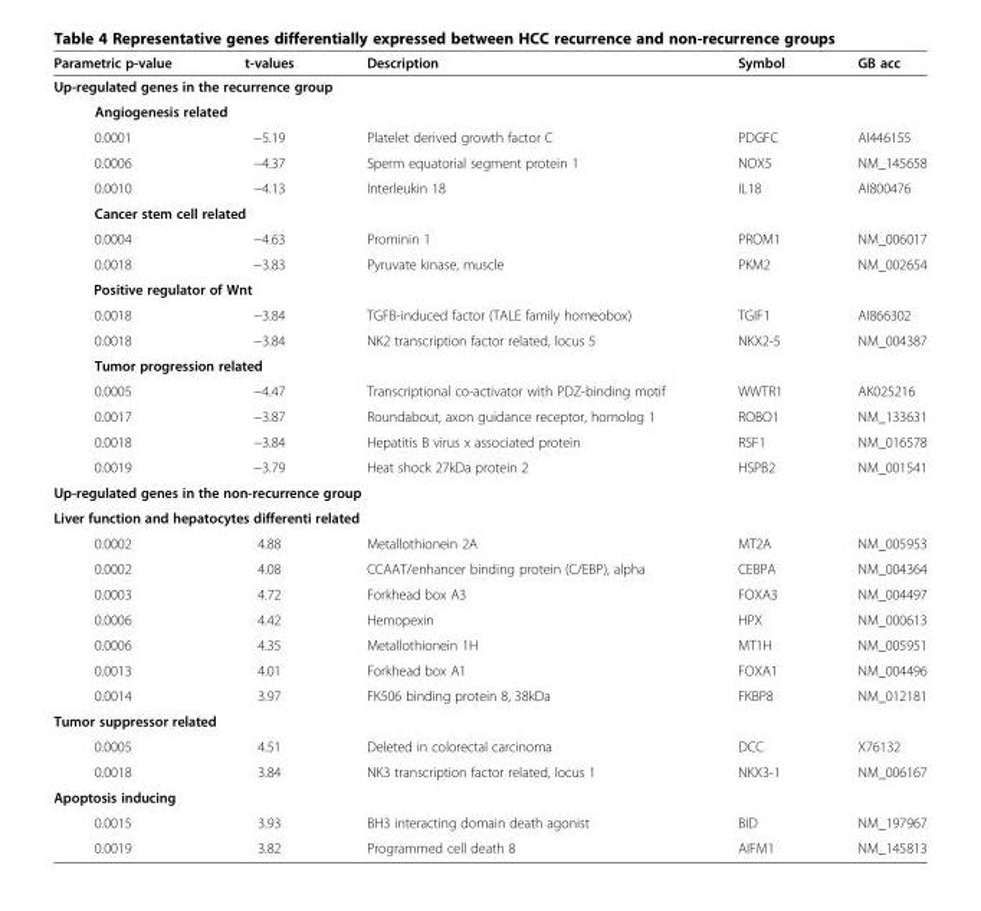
<table><thead><tr><td>Parametric p-value</td><td>t-values</td><td>Description</td><td>Symbol</td><td>GB acc</td></tr></thead><tbody><tr><td colspan="5">Up-regulated genes in the recurrence group</td></tr><tr><td colspan="5">Angiogenesis related</td></tr><tr><td>0.0001</td><td>−5.19</td><td>Platelet derived growth factor C</td><td>PDGFC</td><td>AI446155</td></tr><tr><td>0.0006</td><td>−4.37</td><td>Sperm equatorial segment protein 1</td><td>NOX5</td><td>NM_145658</td></tr><tr><td>0.0010</td><td>−4.13</td><td>Interleukin 18</td><td>IL18</td><td>AI800476</td></tr><tr><td colspan="5">Cancer stem cell related</td></tr><tr><td>0.0004</td><td>−4.63</td><td>Prominin 1</td><td>PROM1</td><td>NM_006017</td></tr><tr><td>0.0018</td><td>−3.83</td><td>Pyruvate kinase, muscle</td><td>PKM2</td><td>NM_002654</td></tr><tr><td colspan="5">Positive regulator of Wnt</td></tr><tr><td>0.0018</td><td>−3.84</td><td>TGFB-induced factor (TALE family homeobox)</td><td>TGIF1</td><td>AI866302</td></tr><tr><td>0.0018</td><td>−3.84</td><td>NK2 transcription factor related, locus 5</td><td>NKX2-5</td><td>NM_004387</td></tr><tr><td colspan="5">Tumor progression related</td></tr><tr><td>0.0005</td><td>−4.47</td><td>Transcriptional co-activator with PDZ-binding motif</td><td>WWTR1</td><td>AK025216</td></tr><tr><td>0.0017</td><td>−3.87</td><td>Roundabout, axon guidance receptor, homolog 1</td><td>ROBO1</td><td>NM_133631</td></tr><tr><td>0.0018</td><td>−3.84</td><td>Hepatitis B virus x associated protein</td><td>RSF1</td><td>NM_016578</td></tr><tr><td>0.0019</td><td>−3.79</td><td>Heat shock 27kDa protein 2</td><td>HSPB2</td><td>NM_001541</td></tr><tr><td colspan="5">Up-regulated genes in the non-recurrence group</td></tr><tr><td colspan="5">Liver function and hepatocytes differenti related</td></tr><tr><td>0.0002</td><td>4.88</td><td>Metallothionein 2A</td><td>MT2A</td><td>NM_005953</td></tr><tr><td>0.0002</td><td>4.08</td><td>CCAAT/enhancer binding protein (C/EBP), alpha</td><td>CEBPA</td><td>NM_004364</td></tr><tr><td>0.0003</td><td>4.72</td><td>Forkhead box A3</td><td>FOXA3</td><td>NM_004497</td></tr><tr><td>0.0006</td><td>4.42</td><td>Hemopexin</td><td>HPX</td><td>NM_000613</td></tr><tr><td>0.0006</td><td>4.35</td><td>Metallothionein 1H</td><td>MT1H</td><td>NM_005951</td></tr><tr><td>0.0013</td><td>4.01</td><td>Forkhead box A1</td><td>FOXA1</td><td>NM_004496</td></tr><tr><td>0.0014</td><td>3.97</td><td>FK506 binding protein 8, 38kDa</td><td>FKBP8</td><td>NM_012181</td></tr><tr><td colspan="5">Tumor suppressor related</td></tr><tr><td>0.0005</td><td>4.51</td><td>Deleted in colorectal carcinoma</td><td>DCC</td><td>X76132</td></tr><tr><td>0.0018</td><td>3.84</td><td>NK3 transcription factor related, locus 1</td><td>NKX3-1</td><td>NM_006167</td></tr><tr><td colspan="5">Apoptosis inducing</td></tr><tr><td>0.0015</td><td>3.93</td><td>BH3 interacting domain death agonist</td><td>BID</td><td>NM_197967</td></tr><tr><td>0.0019</td><td>3.82</td><td>Programmed cell death 8</td><td>AIFM1</td><td>NM_145813</td></tr></tbody></table>